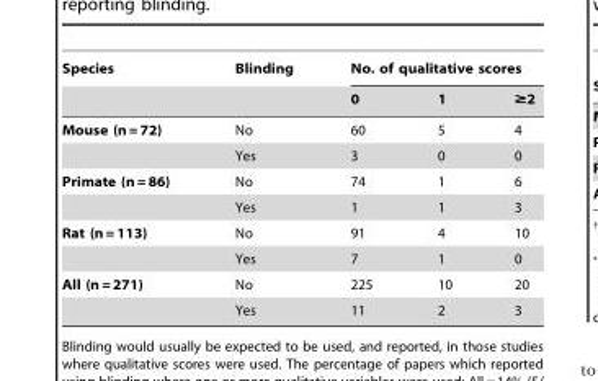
<table><thead><tr><td rowspan="2">Species</td><td rowspan="2">Blinding</td><td colspan="3">No. of qualitative scores</td></tr><tr><td>0</td><td>1</td><td>≥2</td></tr></thead><tbody><tr><td rowspan="2">Mouse (n = 72)</td><td>No</td><td>60</td><td>5</td><td>4</td></tr><tr><td>Yes</td><td>3</td><td>0</td><td>0</td></tr><tr><td rowspan="2">Primate (n = 86)</td><td>No</td><td>74</td><td>1</td><td>6</td></tr><tr><td>Yes</td><td>1</td><td>1</td><td>3</td></tr><tr><td rowspan="2">Rat (n = 113)</td><td>No</td><td>91</td><td>4</td><td>10</td></tr><tr><td>Yes</td><td>7</td><td>1</td><td>0</td></tr><tr><td rowspan="2">All (n = 271)</td><td>No</td><td>225</td><td>10</td><td>20</td></tr><tr><td>Yes</td><td>11</td><td>2</td><td>3</td></tr></tbody></table>